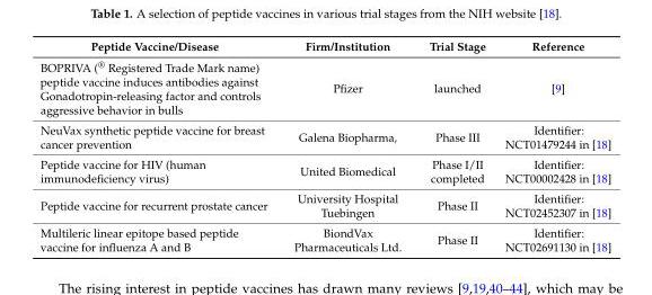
<table><thead><tr><td>Peptide Vaccine/Disease</td><td>Firm/Institution</td><td>Trial Stage</td><td>Reference</td></tr></thead><tbody><tr><td>BOPRIVA (<sup>®</sup> Registered Trade Mark name) peptide vaccine induces antibodies against Gonadotropin-releasing factor and controls aggressive behavior in bulls</td><td>Pfizer</td><td>launched</td><td>[9]</td></tr><tr><td>NeuVax synthetic peptide vaccine for breast cancer prevention</td><td>Galena Biopharma,</td><td>Phase III</td><td>Identifier: NCT01479244 in [18]</td></tr><tr><td>Peptide vaccine for HIV (human immunodeficiency virus)</td><td>United Biomedical</td><td>Phase I/II completed</td><td>Identifier: NCT00002428 in [18]</td></tr><tr><td>Peptide vaccine for recurrent prostate cancer</td><td>University Hospital Tuebingen</td><td>Phase II</td><td>Identifier: NCT02452307 in [18]</td></tr><tr><td>Multileric linear epitope based peptide vaccine for influenza A and B</td><td>BiondVax Pharmaceuticals Ltd.</td><td>Phase II</td><td>Identifier: NCT02691130 in [18]</td></tr></tbody></table>